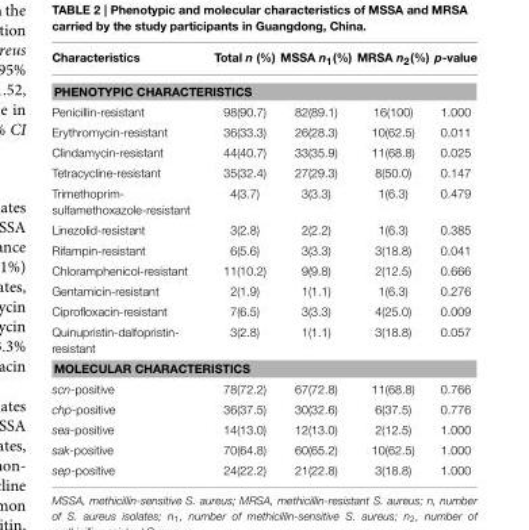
<table><thead><tr><td>Characteristics</td><td>Total n (%)</td><td>MSSA n<sub>1</sub>(%)</td><td>MRSA n<sub>2</sub>(%)</td><td>p-value</td></tr></thead><tbody><tr><td colspan="5">PHENOTYPIC CHARACTERISTICS</td></tr><tr><td>Penicillin-resistant</td><td>98(90.7)</td><td>82(89.1)</td><td>16(100)</td><td>1.000</td></tr><tr><td>Erythromycin-resistant</td><td>36(33.3)</td><td>26(28.3)</td><td>10(62.5)</td><td>0.011</td></tr><tr><td>Clindamycin-resistant</td><td>44(40.7)</td><td>33(35.9)</td><td>11(68.8)</td><td>0.025</td></tr><tr><td>Tetracycline-resistant</td><td>35(32.4)</td><td>27(29.3)</td><td>8(50.0)</td><td>0.147</td></tr><tr><td>Trimethoprim- sulfamethoxazole-resistant</td><td>4(3.7)</td><td>3(3.3)</td><td>1(6.3)</td><td>0.479</td></tr><tr><td>Linezolid-resistant</td><td>3(2.8)</td><td>2(2.2)</td><td>1(6.3)</td><td>0.385</td></tr><tr><td>Rifampin-resistant</td><td>6(5.6)</td><td>3(3.3)</td><td>3(18.8)</td><td>0.041</td></tr><tr><td>Chloramphenicol-resistant</td><td>11(10.2)</td><td>9(9.8)</td><td>2(12.5)</td><td>0.666</td></tr><tr><td>Gentamicin-resistant</td><td>2(1.9)</td><td>1(1.1)</td><td>1(6.3)</td><td>0.276</td></tr><tr><td>Ciprofloxacin-resistant</td><td>7(6.5)</td><td>3(3.3)</td><td>4(25.0)</td><td>0.009</td></tr><tr><td>Quinupristin-dalfopristin- resistant</td><td>3(2.8)</td><td>1(1.1)</td><td>3(18.8)</td><td>0.057</td></tr><tr><td colspan="5">MOLECULAR CHARACTERISTICS</td></tr><tr><td>scn-positive</td><td>78(72.2)</td><td>67(72.8)</td><td>11(68.8)</td><td>0.766</td></tr><tr><td>chp-positive</td><td>36(37.5)</td><td>30(32.6)</td><td>6(37.5)</td><td>0.776</td></tr><tr><td>sea-positive</td><td>14(13.0)</td><td>12(13.0)</td><td>2(12.5)</td><td>1.000</td></tr><tr><td>sak-positive</td><td>70(64.8)</td><td>60(65.2)</td><td>10(62.5)</td><td>1.000</td></tr><tr><td>sep-positive</td><td>24(22.2)</td><td>21(22.8)</td><td>3(18.8)</td><td>1.000</td></tr></tbody></table>